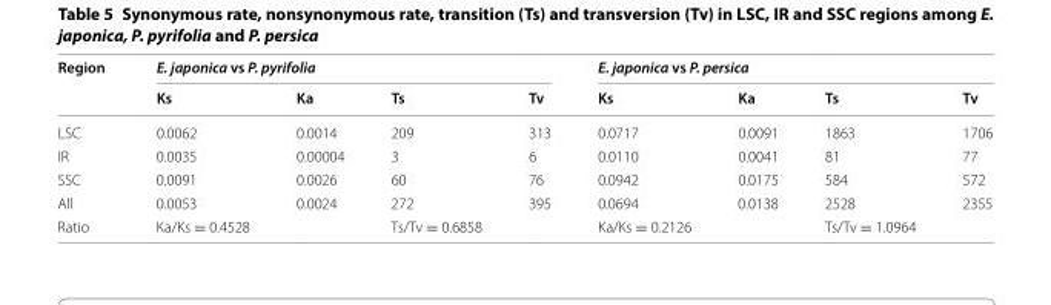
<table><thead><tr><td rowspan="2">Region</td><td colspan="4">E. japonica vs P. pyrifolia</td><td colspan="4">E. japonica vs P. persica</td></tr><tr><td>Ks</td><td>Ka</td><td>Ts</td><td>Tv</td><td>Ks</td><td>Ka</td><td>Ts</td><td>Tv</td></tr></thead><tbody><tr><td>LSC</td><td>0.0062</td><td>0.0014</td><td>209</td><td>313</td><td>0.0717</td><td>0.0091</td><td>1863</td><td>1706</td></tr><tr><td>IR</td><td>0.0035</td><td>0.00004</td><td>3</td><td>6</td><td>0.0110</td><td>0.0041</td><td>81</td><td>77</td></tr><tr><td>SSC</td><td>0.0091</td><td>0.0026</td><td>60</td><td>76</td><td>0.0942</td><td>0.0175</td><td>584</td><td>572</td></tr><tr><td>All</td><td>0.0053</td><td>0.0024</td><td>272</td><td>395</td><td>0.0694</td><td>0.0138</td><td>2528</td><td>2355</td></tr><tr><td>Ratio</td><td colspan="2">Ka/Ks = 0.4528</td><td colspan="2">Ts/Tv = 0.6858</td><td colspan="2">Ka/Ks = 0.2126</td><td colspan="2">Ts/Tv = 1.0964</td></tr></tbody></table>